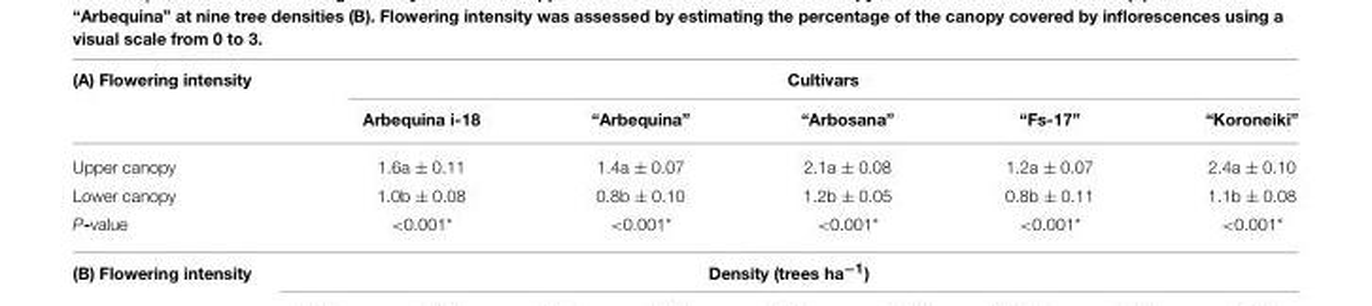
<table><thead><tr><td rowspan="2">(A) Flowering intensity</td><td colspan="5">Cultivars</td></tr><tr><td>Arbequina i-18</td><td>“Arbequina”</td><td>“Arbosana”</td><td>“Fs-17”</td><td>“Koroneiki”</td></tr></thead><tbody><tr><td>Upper canopy</td><td>1.6a ± 0.11</td><td>1.4a ± 0.07</td><td>2.1a ± 0.08</td><td>1.2a ± 0.07</td><td>2.4a ± 0.10</td></tr><tr><td>Lower canopy</td><td>1.0b ± 0.08</td><td>0.8b ± 0.10</td><td>1.2b ± 0.05</td><td>0.8b ± 0.11</td><td>1.1b ± 0.08</td></tr><tr><td>P-value</td><td>&lt;0.001*</td><td>&lt;0.001*</td><td>&lt;0.001*</td><td>&lt;0.001*</td><td>&lt;0.001*</td></tr></tbody></table>